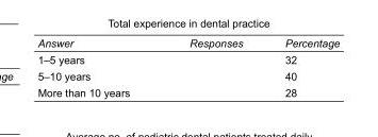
<table><tbody><tr><td>Answer</td><td>Responses</td><td>Percentage</td></tr><tr><td>1–5 years</td><td></td><td>32</td></tr><tr><td>5–10 years</td><td></td><td>40</td></tr><tr><td>More than 10 years</td><td></td><td>28</td></tr></tbody></table>